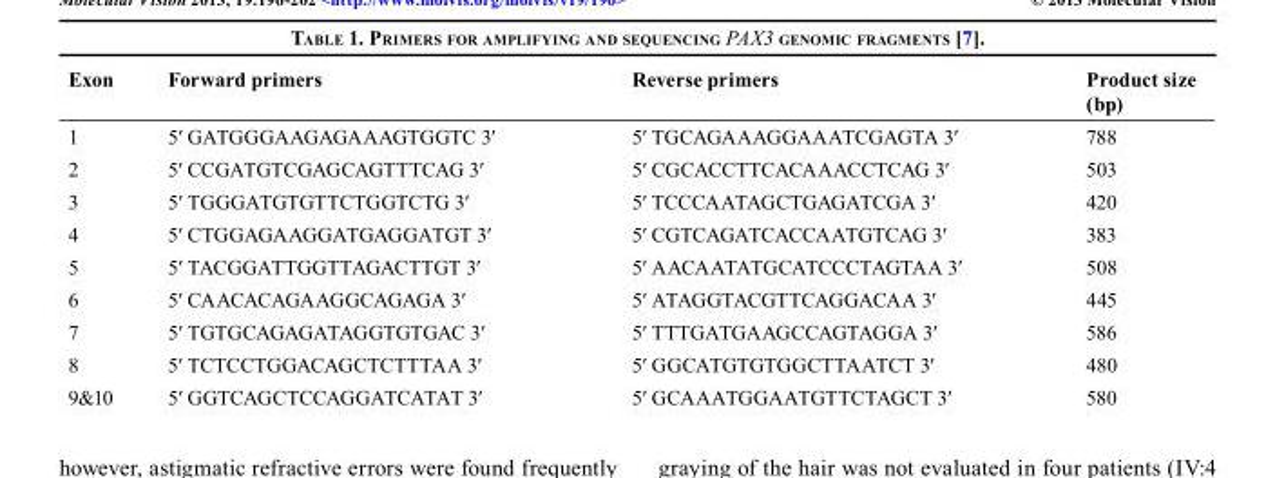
<table><thead><tr><td>Exon</td><td>Forward primers</td><td>Reverse primers</td><td>Product size (bp)</td></tr></thead><tbody><tr><td>1</td><td>5′ GATGGGAAGAGAAAGTGGTC 3′</td><td>5′ TGCAGAAAGGAAATCGAGTA 3′</td><td>788</td></tr><tr><td>2</td><td>5′ CCGATGTCGAGCAGTTTCAG 3′</td><td>5′ CGCACCTTCACAAACCTCAG 3′</td><td>503</td></tr><tr><td>3</td><td>5′ TGGGATGTGTTCTGGTCTG 3′</td><td>5′ TCCCAATAGCTGAGATCGA 3′</td><td>420</td></tr><tr><td>4</td><td>5′ CTGGAGAAGGATGAGGATGT 3′</td><td>5′ CGTCAGATCACCAATGTCAG 3′</td><td>383</td></tr><tr><td>5</td><td>5′ TACGGATTGGTTAGACTTGT 3′</td><td>5′ AACAATATGCATCCCTAGTAA 3′</td><td>508</td></tr><tr><td>6</td><td>5′ CAACACAGAAGGCAGAGA 3′</td><td>5′ ATAGGTACGTTCAGGACAA 3′</td><td>445</td></tr><tr><td>7</td><td>5′ TGTGCAGAGATAGGTGTGAC 3′</td><td>5′ TTTGATGAAGCCAGTAGGA 3′</td><td>586</td></tr><tr><td>8</td><td>5′ TCTCCTGGACAGCTCTTTAA 3′</td><td>5′ GGCATGTGTGGCTTAATCT 3′</td><td>480</td></tr><tr><td>9&amp;10</td><td>5′ GGTCAGCTCCAGGATCATAT 3′</td><td>5′ GCAAATGGAATGTTCTAGCT 3′</td><td>580</td></tr></tbody></table>